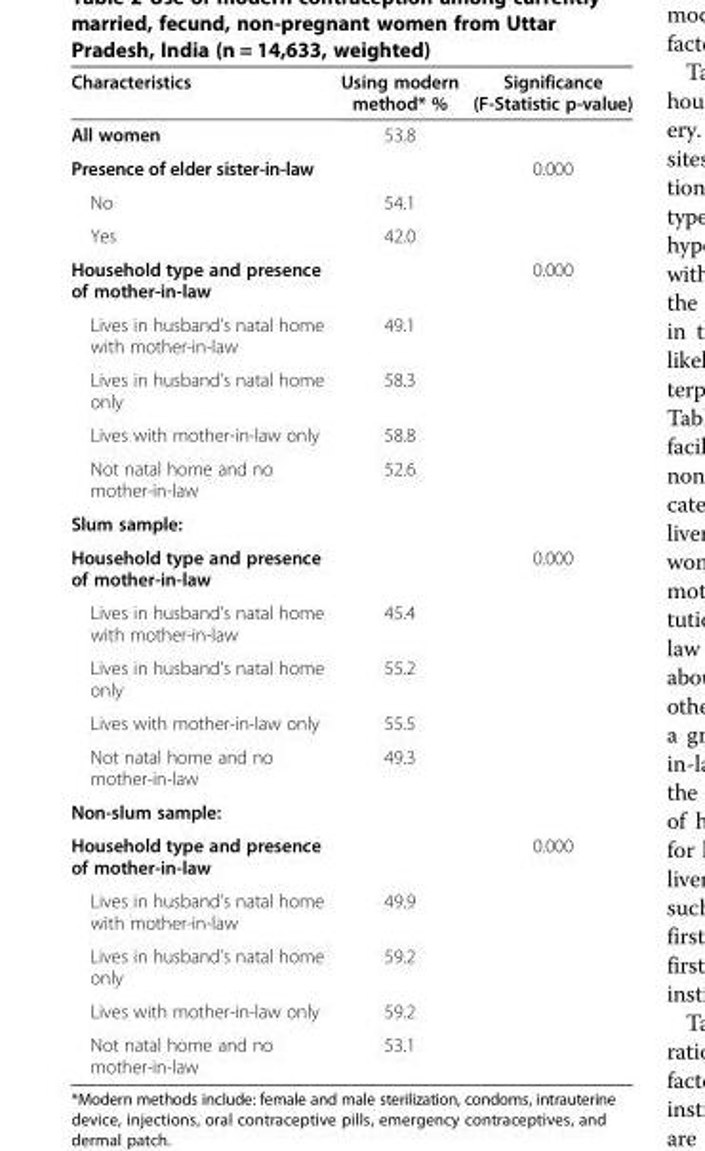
<table><thead><tr><td>Characteristics</td><td>Using modern method* %</td><td>Significance (F-Statistic p-value)</td></tr></thead><tbody><tr><td>All women</td><td>53.8</td><td></td></tr><tr><td>Presence of elder sister-in-law</td><td></td><td>0.000</td></tr><tr><td>No</td><td>54.1</td><td></td></tr><tr><td>Yes</td><td>42.0</td><td></td></tr><tr><td>Household type and presence of mother-in-law</td><td></td><td>0.000</td></tr><tr><td>Lives in husband’s natal home with mother-in-law</td><td>49.1</td><td></td></tr><tr><td>Lives in husband’s natal home only</td><td>58.3</td><td></td></tr><tr><td>Lives with mother-in-law only</td><td>58.8</td><td></td></tr><tr><td>Not natal home and no mother-in-law</td><td>52.6</td><td></td></tr><tr><td colspan="3">Slum sample:</td></tr><tr><td>Household type and presence of mother-in-law</td><td></td><td>0.000</td></tr><tr><td>Lives in husband’s natal home with mother-in-law</td><td>45.4</td><td></td></tr><tr><td>Lives in husband’s natal home only</td><td>55.2</td><td></td></tr><tr><td>Lives with mother-in-law only</td><td>55.5</td><td></td></tr><tr><td>Not natal home and no mother-in-law</td><td>49.3</td><td></td></tr><tr><td colspan="3">Non-slum sample:</td></tr><tr><td>Household type and presence of mother-in-law</td><td></td><td>0.000</td></tr><tr><td>Lives in husband’s natal home with mother-in-law</td><td>49.9</td><td></td></tr><tr><td>Lives in husband’s natal home only</td><td>59.2</td><td></td></tr><tr><td>Lives with mother-in-law only</td><td>59.2</td><td></td></tr><tr><td>Not natal home and no mother-in-law</td><td>53.1</td><td></td></tr></tbody></table>